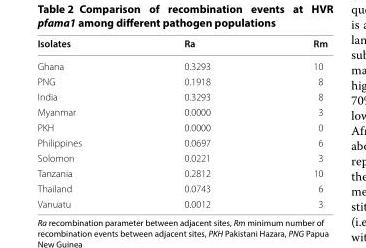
<table><thead><tr><td>Isolates</td><td>Ra</td><td>Rm</td></tr></thead><tbody><tr><td>Ghana</td><td>0.3293</td><td>10</td></tr><tr><td>PNG</td><td>0.1918</td><td>8</td></tr><tr><td>India</td><td>0.3293</td><td>8</td></tr><tr><td>Myanmar</td><td>0.0000</td><td>3</td></tr><tr><td>PKH</td><td>0.0000</td><td>0</td></tr><tr><td>Philippines</td><td>0.0697</td><td>6</td></tr><tr><td>Solomon</td><td>0.0221</td><td>3</td></tr><tr><td>Tanzania</td><td>0.2812</td><td>10</td></tr><tr><td>Thailand</td><td>0.0743</td><td>6</td></tr><tr><td>Vanuatu</td><td>0.0012</td><td>3</td></tr></tbody></table>